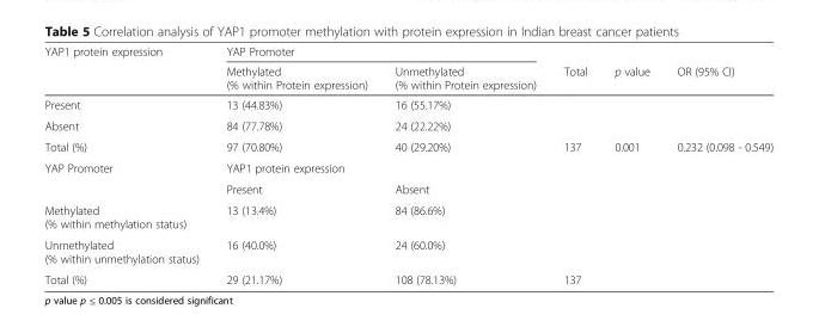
<table><thead><tr><td rowspan="2">YAP1 protein expression</td><td colspan="2">YAP Promoter</td><td rowspan="2">Total</td><td rowspan="2">p value</td><td rowspan="2">OR (95% CI)</td></tr><tr><td>Methylated (% within Protein expression)</td><td>Unmethylated (% within Protein expression)</td></tr></thead><tbody><tr><td>Present</td><td>13 (44.83%)</td><td>16 (55.17%)</td><td></td><td></td><td></td></tr><tr><td>Absent</td><td>84 (77.78%)</td><td>24 (22.22%)</td><td></td><td></td><td></td></tr><tr><td>Total (%)</td><td>97 (70.80%)</td><td>40 (29.20%)</td><td>137</td><td>0.001</td><td>0.232 (0.098 - 0.549)</td></tr><tr><td rowspan="2">YAP Promoter</td><td colspan="2">YAP1 protein expression</td><td></td><td></td><td></td></tr><tr><td>Present</td><td>Absent</td><td></td><td></td><td></td></tr><tr><td>Methylated (% within methylation status)</td><td>13 (13.4%)</td><td>84 (86.6%)</td><td></td><td></td><td></td></tr><tr><td>Unmethylated (% within unmethylation status)</td><td>16 (40.0%)</td><td>24 (60.0%)</td><td></td><td></td><td></td></tr><tr><td>Total (%)</td><td>29 (21.17%)</td><td>108 (78.13%)</td><td>137</td><td></td><td></td></tr></tbody></table>